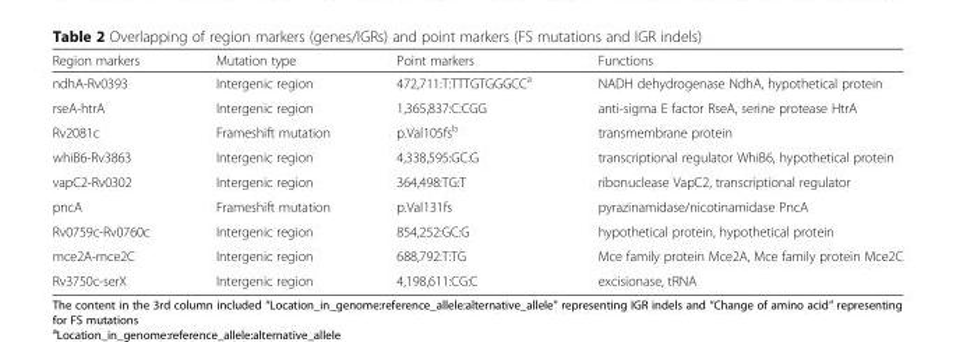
<table><thead><tr><td>Region markers</td><td>Mutation type</td><td>Point markers</td><td>Functions</td></tr></thead><tbody><tr><td>ndhA-Rv0393</td><td>Intergenic region</td><td>472,711:T:TTTGTGGGCC<sup>a</sup></td><td>NADH dehydrogenase NdhA, hypothetical protein</td></tr><tr><td>rseA-htrA</td><td>Intergenic region</td><td>1,365,837:C:CGG</td><td>anti-sigma E factor RseA, serine protease HtrA</td></tr><tr><td>Rv2081c</td><td>Frameshift mutation</td><td>p.Val105fs<sup>b</sup></td><td>transmembrane protein</td></tr><tr><td>whiB6-Rv3863</td><td>Intergenic region</td><td>4,338,595:GC:G</td><td>transcriptional regulator WhiB6, hypothetical protein</td></tr><tr><td>vapC2-Rv0302</td><td>Intergenic region</td><td>364,498:TG:T</td><td>ribonuclease VapC2, transcriptional regulator</td></tr><tr><td>pncA</td><td>Frameshift mutation</td><td>p.Val131fs</td><td>pyrazinamidase/nicotinamidase PncA</td></tr><tr><td>Rv0759c-Rv0760c</td><td>Intergenic region</td><td>854,252:GC:G</td><td>hypothetical protein, hypothetical protein</td></tr><tr><td>mce2A-mce2C</td><td>Intergenic region</td><td>688,792:T:TG</td><td>Mce family protein Mce2A, Mce family protein Mce2C</td></tr><tr><td>Rv3750c-serX</td><td>Intergenic region</td><td>4,198,611:CG:C</td><td>excisionase, tRNA</td></tr></tbody></table>